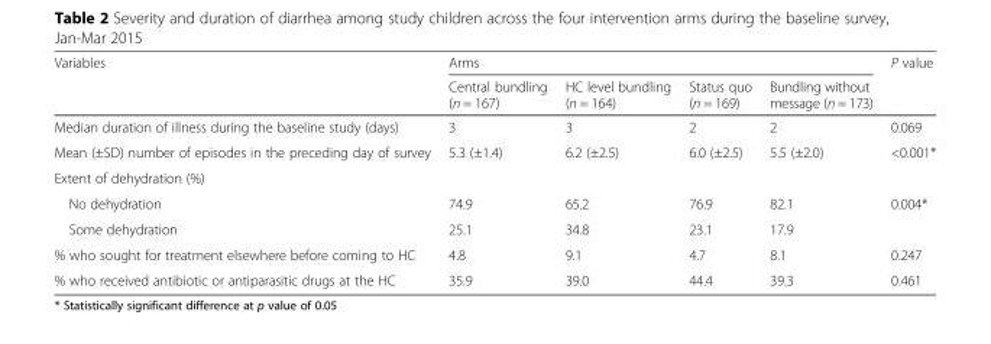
<table><thead><tr><td rowspan="2">Variables</td><td colspan="4">Arms</td><td rowspan="2">P value</td></tr><tr><td>Central bundling (n = 167)</td><td>HC level bundling (n = 164)</td><td>Status quo (n = 169)</td><td>Bundling without message (n = 173)</td></tr></thead><tbody><tr><td>Median duration of illness during the baseline study (days)</td><td>3</td><td>3</td><td>2</td><td>2</td><td>0.069</td></tr><tr><td>Mean (±SD) number of episodes in the preceding day of survey</td><td>5.3 (±1.4)</td><td>6.2 (±2.5)</td><td>6.0 (±2.5)</td><td>5.5 (±2.0)</td><td>&lt;0.001*</td></tr><tr><td colspan="6">Extent of dehydration (%)</td></tr><tr><td>No dehydration</td><td>74.9</td><td>65.2</td><td>76.9</td><td>82.1</td><td rowspan="2">0.004*</td></tr><tr><td>Some dehydration</td><td>25.1</td><td>34.8</td><td>23.1</td><td>17.9</td></tr><tr><td>% who sought for treatment elsewhere before coming to HC</td><td>4.8</td><td>9.1</td><td>4.7</td><td>8.1</td><td>0.247</td></tr><tr><td>% who received antibiotic or antiparasitic drugs at the HC</td><td>35.9</td><td>39.0</td><td>44.4</td><td>39.3</td><td>0.461</td></tr></tbody></table>